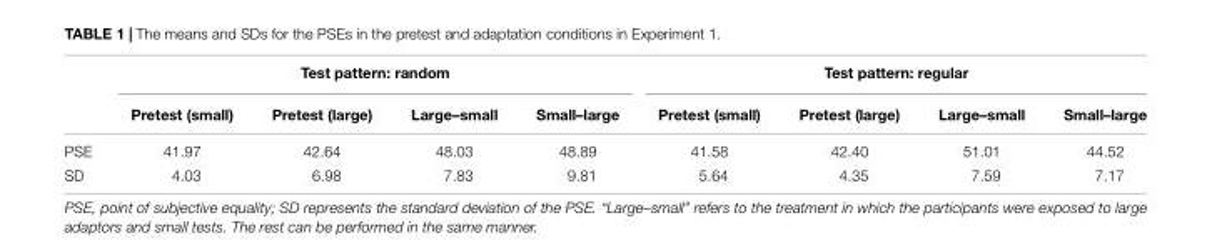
<table><thead><tr><td rowspan="2"></td><td colspan="4">Test pattern: random</td><td colspan="4">Test pattern: regular</td></tr><tr><td>Pretest (small)</td><td>Pretest (large)</td><td>Large–small</td><td>Small–large</td><td>Pretest (small)</td><td>Pretest (large)</td><td>Large–small</td><td>Small–large</td></tr></thead><tbody><tr><td>PSE</td><td>41.97</td><td>42.64</td><td>48.03</td><td>48.89</td><td>41.58</td><td>42.40</td><td>51.01</td><td>44.52</td></tr><tr><td>SD</td><td>4.03</td><td>6.98</td><td>7.83</td><td>9.81</td><td>5.64</td><td>4.35</td><td>7.59</td><td>7.17</td></tr></tbody></table>